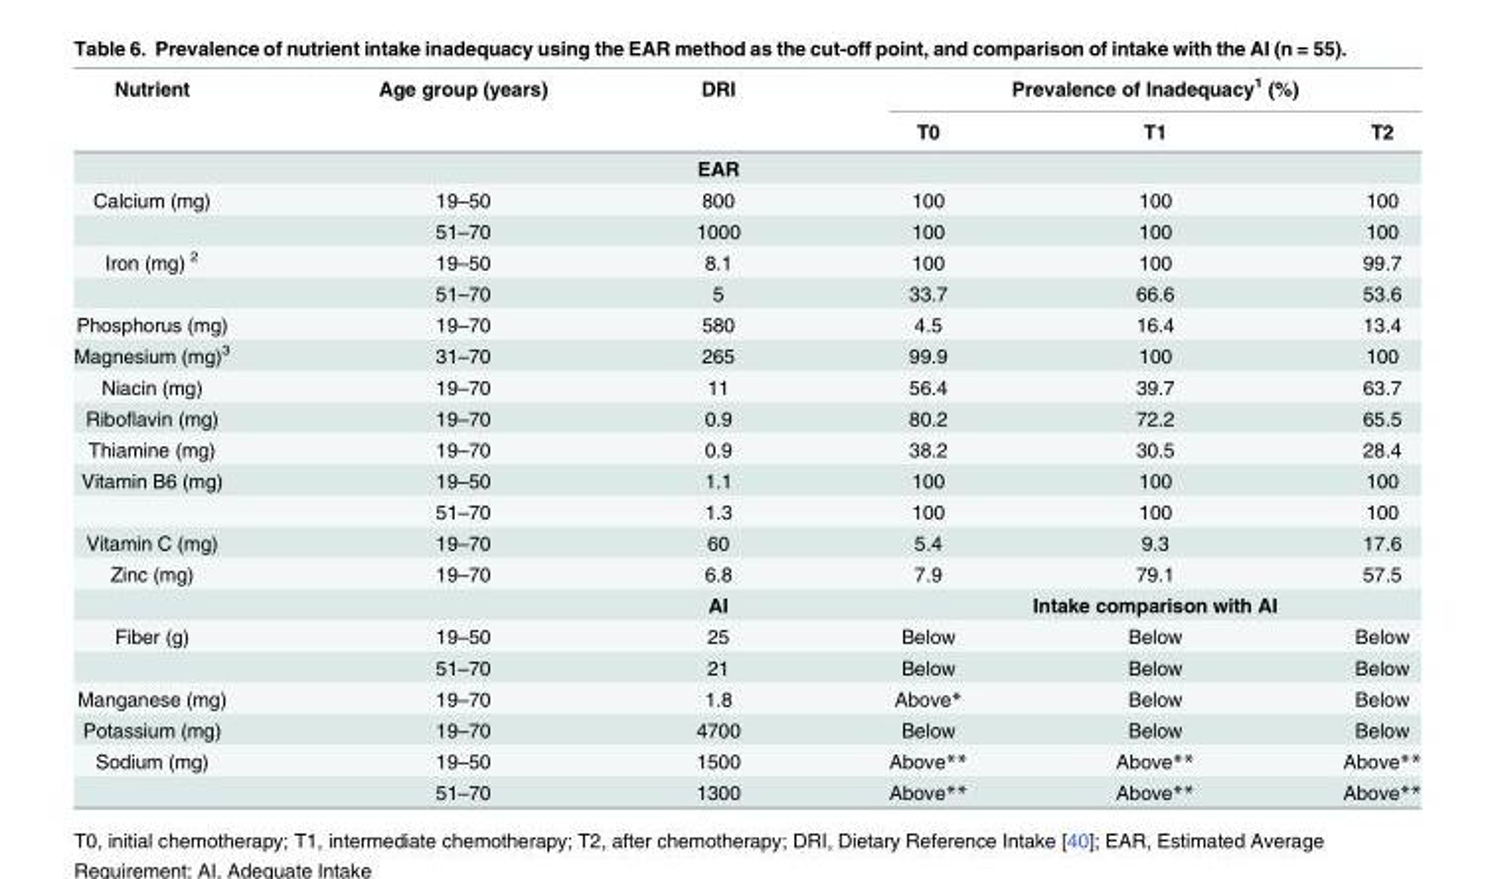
<table><thead><tr><td rowspan="2">Nutrient</td><td rowspan="2">Age group (years)</td><td rowspan="2">DRI</td><td colspan="3">Prevalence of Inadequacy<sup>1</sup> (%)</td></tr><tr><td>T0</td><td>T1</td><td>T2</td></tr></thead><tbody><tr><td></td><td></td><td>EAR</td><td></td><td></td><td></td></tr><tr><td rowspan="2">Calcium (mg)</td><td>19–50</td><td>800</td><td>100</td><td>100</td><td>100</td></tr><tr><td>51–70</td><td>1000</td><td>100</td><td>100</td><td>100</td></tr><tr><td rowspan="2">Iron (mg) <sup>2</sup></td><td>19–50</td><td>8.1</td><td>100</td><td>100</td><td>99.7</td></tr><tr><td>51–70</td><td>5</td><td>33.7</td><td>66.6</td><td>53.6</td></tr><tr><td>Phosphorus (mg)</td><td>19–70</td><td>580</td><td>4.5</td><td>16.4</td><td>13.4</td></tr><tr><td>Magnesium (mg)<sup>3</sup></td><td>31–70</td><td>265</td><td>99.9</td><td>100</td><td>100</td></tr><tr><td>Niacin (mg)</td><td>19–70</td><td>11</td><td>56.4</td><td>39.7</td><td>63.7</td></tr><tr><td>Riboflavin (mg)</td><td>19–70</td><td>0.9</td><td>80.2</td><td>72.2</td><td>65.5</td></tr><tr><td>Thiamine (mg)</td><td>19–70</td><td>0.9</td><td>38.2</td><td>30.5</td><td>28.4</td></tr><tr><td rowspan="2">Vitamin B6 (mg)</td><td>19–50</td><td>1.1</td><td>100</td><td>100</td><td>100</td></tr><tr><td>51–70</td><td>1.3</td><td>100</td><td>100</td><td>100</td></tr><tr><td>Vitamin C (mg)</td><td>19–70</td><td>60</td><td>5.4</td><td>9.3</td><td>17.6</td></tr><tr><td rowspan="2">Zinc (mg)</td><td>19–70</td><td>6.8</td><td>7.9</td><td>79.1</td><td>57.5</td></tr><tr><td></td><td>AI</td><td colspan="3">Intake comparison with AI</td></tr><tr><td rowspan="2">Fiber (g)</td><td>19–50</td><td>25</td><td>Below</td><td>Below</td><td>Below</td></tr><tr><td>51–70</td><td>21</td><td>Below</td><td>Below</td><td>Below</td></tr><tr><td>Manganese (mg)</td><td>19–70</td><td>1.8</td><td>Above*</td><td>Below</td><td>Below</td></tr><tr><td>Potassium (mg)</td><td>19–70</td><td>4700</td><td>Below</td><td>Below</td><td>Below</td></tr><tr><td rowspan="2">Sodium (mg)</td><td>19–50</td><td>1500</td><td>Above**</td><td>Above**</td><td>Above**</td></tr><tr><td>51–70</td><td>1300</td><td>Above**</td><td>Above**</td><td>Above**</td></tr></tbody></table>